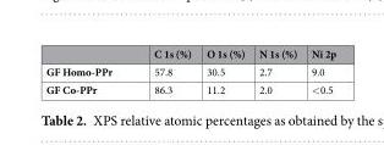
<table><thead><tr><td></td><td>C 1s (%)</td><td>O 1s (%)</td><td>N 1s (%)</td><td>Ni 2p</td></tr></thead><tbody><tr><td>GF Homo-PPr</td><td>57.8</td><td>30.5</td><td>2.7</td><td>9.0</td></tr><tr><td>GF Co-PPr</td><td>86.3</td><td>11.2</td><td>2.0</td><td>&lt;0.5</td></tr></tbody></table>